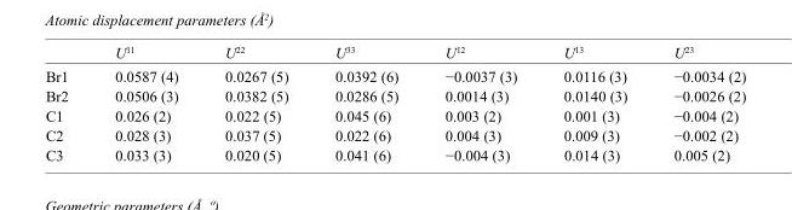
<table><thead><tr><td></td><td>U<sup>11</sup></td><td>U<sup>22</sup></td><td>U<sup>33</sup></td><td>U<sup>12</sup></td><td>U<sup>13</sup></td><td>U<sup>23</sup></td></tr></thead><tbody><tr><td>Br1</td><td>0.0587 (4)</td><td>0.0267 (5)</td><td>0.0392 (6)</td><td>−0.0037 (3)</td><td>0.0116 (3)</td><td>−0.0034 (2)</td></tr><tr><td>Br2</td><td>0.0506 (3)</td><td>0.0382 (5)</td><td>0.0286 (5)</td><td>0.0014 (3)</td><td>0.0140 (3)</td><td>−0.0026 (2)</td></tr><tr><td>C1</td><td>0.026 (2)</td><td>0.022 (5)</td><td>0.045 (6)</td><td>0.003 (2)</td><td>0.001 (3)</td><td>−0.004 (2)</td></tr><tr><td>C2</td><td>0.028 (3)</td><td>0.037 (5)</td><td>0.022 (6)</td><td>0.004 (3)</td><td>0.009 (3)</td><td>−0.002 (2)</td></tr><tr><td>C3</td><td>0.033 (3)</td><td>0.020 (5)</td><td>0.041 (6)</td><td>−0.004 (3)</td><td>0.014 (3)</td><td>0.005 (2)</td></tr></tbody></table>